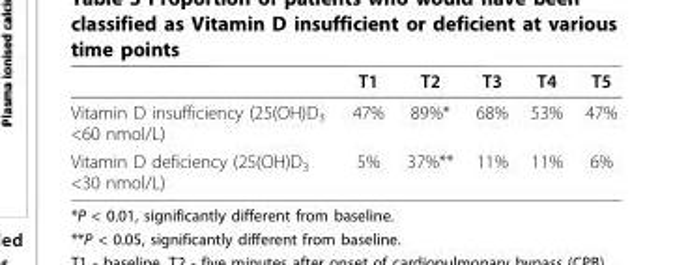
<table><thead><tr><td></td><td>T1</td><td>T2</td><td>T3</td><td>T4</td><td>T5</td></tr></thead><tbody><tr><td>Vitamin D insufficiency (25(OH)D<sub>3</sub> &lt;60 nmol/L)</td><td>47%</td><td>89%*</td><td>68%</td><td>53%</td><td>47%</td></tr><tr><td>Vitamin D deficiency (25(OH)D<sub>3</sub> &lt;30 nmol/L)</td><td>5%</td><td>37%**</td><td>11%</td><td>11%</td><td>6%</td></tr></tbody></table>